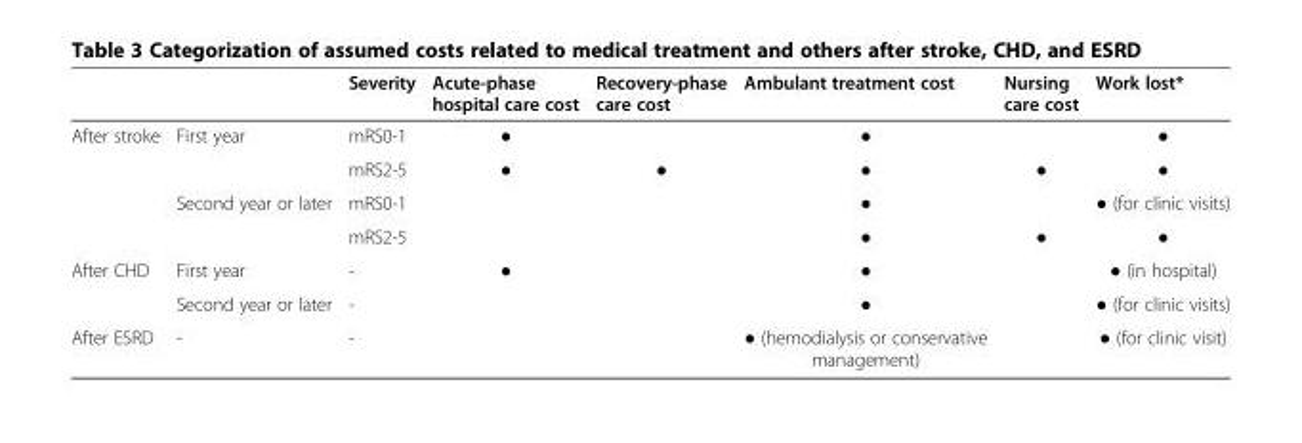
<table><thead><tr><td></td><td></td><td>Severity</td><td>Acute-phase hospital care cost</td><td>Recovery-phase care cost</td><td>Ambulant treatment cost</td><td>Nursing care cost</td><td>Work lost*</td></tr></thead><tbody><tr><td rowspan="4">After stroke</td><td rowspan="2">First year</td><td>mRS0-1</td><td>●</td><td></td><td>●</td><td></td><td>●</td></tr><tr><td>mRS2-5</td><td>●</td><td>●</td><td>●</td><td>●</td><td>●</td></tr><tr><td rowspan="2">Second year or later</td><td>mRS0-1</td><td></td><td></td><td>●</td><td></td><td>● (for clinic visits)</td></tr><tr><td>mRS2-5</td><td></td><td></td><td>●</td><td>●</td><td>●</td></tr><tr><td rowspan="2">After CHD</td><td>First year</td><td>-</td><td>●</td><td></td><td>●</td><td></td><td>● (in hospital)</td></tr><tr><td>Second year or later</td><td>-</td><td></td><td></td><td>●</td><td></td><td>● (for clinic visits)</td></tr><tr><td>After ESRD</td><td>-</td><td>-</td><td></td><td></td><td>● (hemodialysis or conservative management)</td><td></td><td>● (for clinic visit)</td></tr></tbody></table>